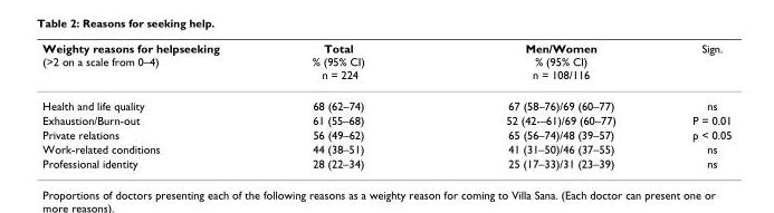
<table><thead><tr><td>Weighty reasons for helpseeking (&gt;2 on a scale from 0–4)</td><td>Total % (95% CI) n = 224</td><td>Men/Women % (95% CI) n = 108/116</td><td>Sign.</td></tr></thead><tbody><tr><td>Health and life quality</td><td>68 (62–74)</td><td>67 (58–76)/69 (60–77)</td><td>ns</td></tr><tr><td>Exhaustion/Burn-out</td><td>61 (55–68)</td><td>52 (42-–61)/69 (60–77)</td><td>P = 0.01</td></tr><tr><td>Private relations</td><td>56 (49–62)</td><td>65 (56–74)/48 (39–57)</td><td>p &lt; 0.05</td></tr><tr><td>Work-related conditions</td><td>44 (38–51)</td><td>41 (31–50)/46 (37–55)</td><td>ns</td></tr><tr><td>Professional identity</td><td>28 (22–34)</td><td>25 (17–33)/31 (23–39)</td><td>ns</td></tr></tbody></table>